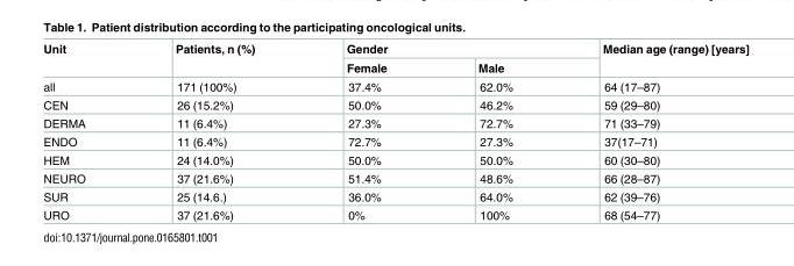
<table><thead><tr><td rowspan="2">Unit</td><td rowspan="2">Patients, n (%)</td><td colspan="2">Gender</td><td rowspan="2">Median age (range) [years]</td></tr><tr><td>Female</td><td>Male</td></tr></thead><tbody><tr><td>all</td><td>171 (100%)</td><td>37.4%</td><td>62.0%</td><td>64 (17–87)</td></tr><tr><td>CEN</td><td>26 (15.2%)</td><td>50.0%</td><td>46.2%</td><td>59 (29–80)</td></tr><tr><td>DERMA</td><td>11 (6.4%)</td><td>27.3%</td><td>72.7%</td><td>71 (33–79)</td></tr><tr><td>ENDO</td><td>11 (6.4%)</td><td>72.7%</td><td>27.3%</td><td>37(17–71)</td></tr><tr><td>HEM</td><td>24 (14.0%)</td><td>50.0%</td><td>50.0%</td><td>60 (30–80)</td></tr><tr><td>NEURO</td><td>37 (21.6%)</td><td>51.4%</td><td>48.6%</td><td>66 (28–87)</td></tr><tr><td>SUR</td><td>25 (14.6.)</td><td>36.0%</td><td>64.0%</td><td>62 (39–76)</td></tr><tr><td>URO</td><td>37 (21.6%)</td><td>0%</td><td>100%</td><td>68 (54–77)</td></tr></tbody></table>